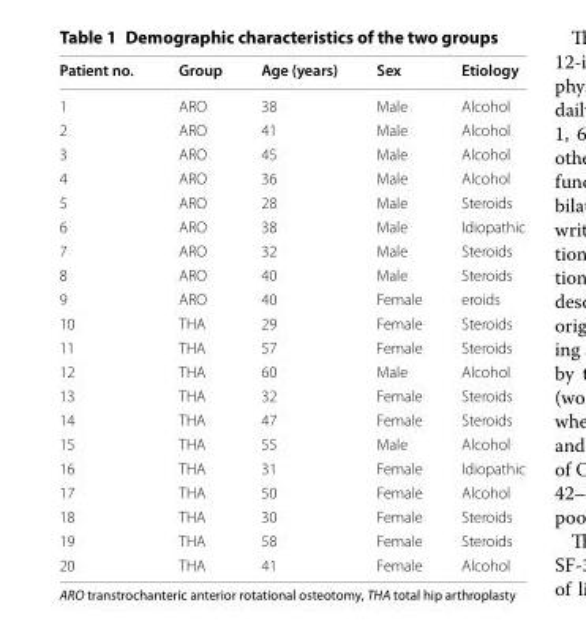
<table><thead><tr><td>Patient no.</td><td>Group</td><td>Age (years)</td><td>Sex</td><td>Etiology</td></tr></thead><tbody><tr><td>1</td><td>ARO</td><td>38</td><td>Male</td><td>Alcohol</td></tr><tr><td>2</td><td>ARO</td><td>41</td><td>Male</td><td>Alcohol</td></tr><tr><td>3</td><td>ARO</td><td>45</td><td>Male</td><td>Alcohol</td></tr><tr><td>4</td><td>ARO</td><td>36</td><td>Male</td><td>Alcohol</td></tr><tr><td>5</td><td>ARO</td><td>28</td><td>Male</td><td>Steroids</td></tr><tr><td>6</td><td>ARO</td><td>38</td><td>Male</td><td>Idiopathic</td></tr><tr><td>7</td><td>ARO</td><td>32</td><td>Male</td><td>Steroids</td></tr><tr><td>8</td><td>ARO</td><td>40</td><td>Male</td><td>Steroids</td></tr><tr><td>9</td><td>ARO</td><td>40</td><td>Female</td><td>eroids</td></tr><tr><td>10</td><td>THA</td><td>29</td><td>Female</td><td>Steroids</td></tr><tr><td>11</td><td>THA</td><td>57</td><td>Female</td><td>Steroids</td></tr><tr><td>12</td><td>THA</td><td>60</td><td>Male</td><td>Alcohol</td></tr><tr><td>13</td><td>THA</td><td>32</td><td>Female</td><td>Steroids</td></tr><tr><td>14</td><td>THA</td><td>47</td><td>Female</td><td>Steroids</td></tr><tr><td>15</td><td>THA</td><td>55</td><td>Male</td><td>Alcohol</td></tr><tr><td>16</td><td>THA</td><td>31</td><td>Female</td><td>Idiopathic</td></tr><tr><td>17</td><td>THA</td><td>50</td><td>Female</td><td>Alcohol</td></tr><tr><td>18</td><td>THA</td><td>30</td><td>Female</td><td>Steroids</td></tr><tr><td>19</td><td>THA</td><td>58</td><td>Female</td><td>Steroids</td></tr><tr><td>20</td><td>THA</td><td>41</td><td>Female</td><td>Alcohol</td></tr></tbody></table>